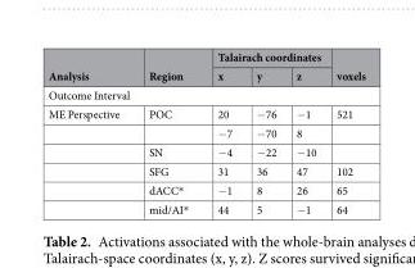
<table><thead><tr><td rowspan="2">Analysis</td><td rowspan="2">Region</td><td colspan="3">Talairach coordinates</td><td rowspan="2">voxels</td></tr><tr><td>x</td><td>y</td><td>z</td></tr></thead><tbody><tr><td colspan="6">Outcome Interval</td></tr><tr><td rowspan="6">ME Perspective</td><td>POC</td><td>20</td><td>−76</td><td>−1</td><td>521</td></tr><tr><td></td><td>−7</td><td>−70</td><td>8</td><td></td></tr><tr><td>SN</td><td>−4</td><td>−22</td><td>−10</td><td></td></tr><tr><td>SFG</td><td>31</td><td>36</td><td>47</td><td>102</td></tr><tr><td>dACC*</td><td>−1</td><td>8</td><td>26</td><td>65</td></tr><tr><td>mid/AI*</td><td>44</td><td>5</td><td>−1</td><td>64</td></tr></tbody></table>